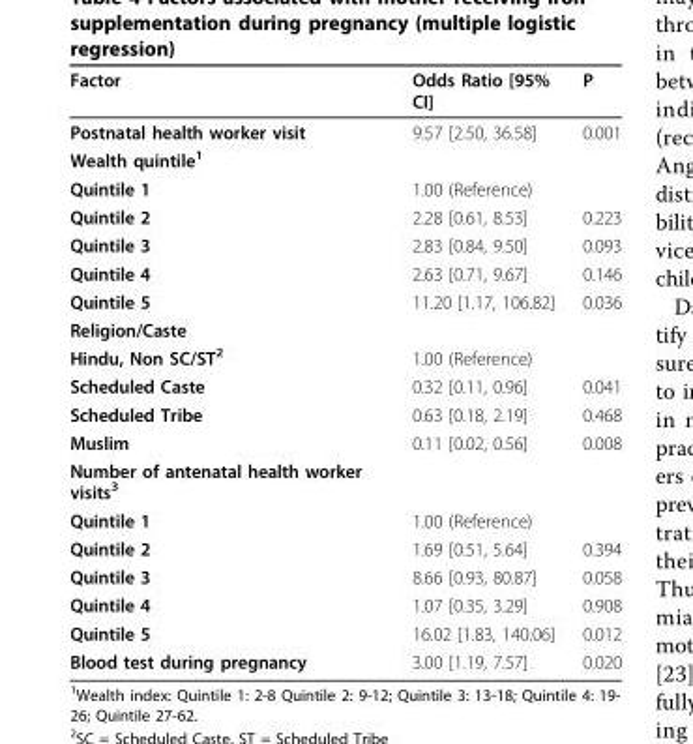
<table><thead><tr><td>Factor</td><td>Odds Ratio [95% CI]</td><td>P</td></tr></thead><tbody><tr><td>Postnatal health worker visit</td><td>9.57 [2.50, 36.58]</td><td>0.001</td></tr><tr><td colspan="3">Wealth quintile<sup>1</sup></td></tr><tr><td>Quintile 1</td><td>1.00 (Reference)</td><td></td></tr><tr><td>Quintile 2</td><td>2.28 [0.61, 8.53]</td><td>0.223</td></tr><tr><td>Quintile 3</td><td>2.83 [0.84, 9.50]</td><td>0.093</td></tr><tr><td>Quintile 4</td><td>2.63 [0.71, 9.67]</td><td>0.146</td></tr><tr><td>Quintile 5</td><td>11.20 [1.17, 106.82]</td><td>0.036</td></tr><tr><td colspan="3">Religion/Caste</td></tr><tr><td>Hindu, Non SC/ST<sup>2</sup></td><td>1.00 (Reference)</td><td></td></tr><tr><td>Scheduled Caste</td><td>0.32 [0.11, 0.96]</td><td>0.041</td></tr><tr><td>Scheduled Tribe</td><td>0.63 [0.18, 2.19]</td><td>0.468</td></tr><tr><td>Muslim</td><td>0.11 [0.02, 0.56]</td><td>0.008</td></tr><tr><td colspan="3">Number of antenatal health worker visits<sup>3</sup></td></tr><tr><td>Quintile 1</td><td>1.00 (Reference)</td><td></td></tr><tr><td>Quintile 2</td><td>1.69 [0.51, 5.64]</td><td>0.394</td></tr><tr><td>Quintile 3</td><td>8.66 [0.93, 80.87]</td><td>0.058</td></tr><tr><td>Quintile 4</td><td>1.07 [0.35, 3.29]</td><td>0.908</td></tr><tr><td>Quintile 5</td><td>16.02 [1.83, 140.06]</td><td>0.012</td></tr><tr><td>Blood test during pregnancy</td><td>3.00 [1.19, 7.57]</td><td>0.020</td></tr></tbody></table>